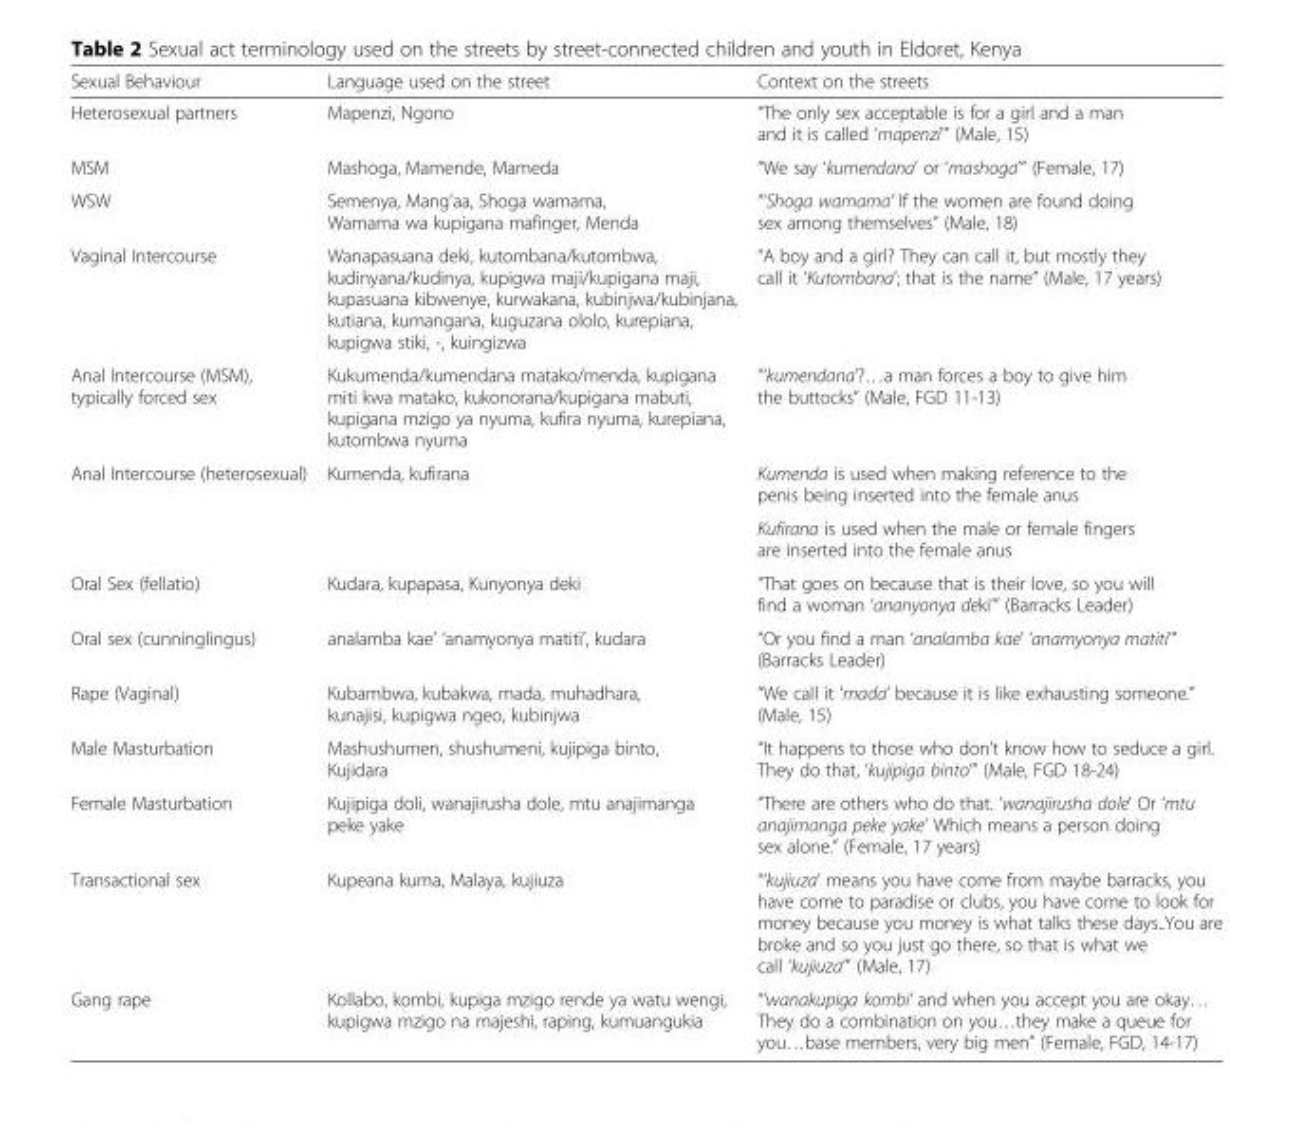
<table><thead><tr><td>Sexual Behaviour</td><td>Language used on the street</td><td>Context on the streets</td></tr></thead><tbody><tr><td>Heterosexual partners</td><td>Mapenzi, Ngono</td><td>“The only sex acceptable is for a girl and a man and it is called ‘mapenzi’” (Male, 15)</td></tr><tr><td>MSM</td><td>Mashoga, Mamende, Mameda</td><td>“We say ‘kumendana’ or ‘mashoga’” (Female, 17)</td></tr><tr><td>WSW</td><td>Semenya, Mang’aa, Shoga wamama, Wamama wa kupigana mafinger, Menda</td><td>“‘Shoga wamama’ If the women are found doing sex among themselves” (Male, 18)</td></tr><tr><td>Vaginal Intercourse</td><td>Wanapasuana deki, kutombana/kutombwa, kudinyana/kudinya, kupigwa maji/kupigana maji, kupasuana kibwenye, kurwakana, kubinjwa/kubinjana, kutiana, kumangana, kuguzana ololo, kurepiana, kupigwa stiki, -, kuingizwa</td><td>“A boy and a girl? They can call it, but mostly they call it ‘Kutombana’; that is the name” (Male, 17 years)</td></tr><tr><td>Anal Intercourse (MSM), typically forced sex</td><td>Kukumenda/kumendana matako/menda, kupigana miti kwa matako, kukonorana/kupigana mabuti, kupigana mzigo ya nyuma, kufira nyuma, kurepiana, kutombwa nyuma</td><td>“‘kumendana’?…a man forces a boy to give him the buttocks” (Male, FGD 11-13)</td></tr><tr><td rowspan="2">Anal Intercourse (heterosexual)</td><td rowspan="2">Kumenda, kufirana</td><td>Kumenda is used when making reference to the penis being inserted into the female anus</td></tr><tr><td>Kufirana is used when the male or female fingers are inserted into the female anus</td></tr><tr><td>Oral Sex (fellatio)</td><td>Kudara, kupapasa, Kunyonya deki</td><td>“That goes on because that is their love, so you will find a woman ‘ananyonya deki’” (Barracks Leader)</td></tr><tr><td>Oral sex (cunninglingus)</td><td>analamba kae’ ‘anamyonya matiti’, kudara</td><td>“Or you find a man ‘analamba kae’ ‘anamyonya matiti’” (Barracks Leader)</td></tr><tr><td>Rape (Vaginal)</td><td>Kubambwa, kubakwa, mada, muhadhara, kunajisi, kupigwa ngeo, kubinjwa</td><td>“We call it ‘mada’ because it is like exhausting someone.” (Male, 15)</td></tr><tr><td>Male Masturbation</td><td>Mashushumen, shushumeni, kujipiga binto, Kujidara</td><td>“It happens to those who don’t know how to seduce a girl. They do that, ‘kujipiga binto’” (Male, FGD 18-24)</td></tr><tr><td>Female Masturbation</td><td>Kujipiga doli, wanajirusha dole, mtu anajimanga peke yake</td><td>“There are others who do that. ‘wanajirusha dole’ Or ‘mtu anajimanga peke yake’ Which means a person doing sex alone.” (Female, 17 years)</td></tr><tr><td>Transactional sex</td><td>Kupeana kuma, Malaya, kujiuza</td><td>“‘kujiuza’ means you have come from maybe barracks, you have come to paradise or clubs, you have come to look for money because you money is what talks these days..You are broke and so you just go there, so that is what we call ‘kujiuza’” (Male, 17)</td></tr><tr><td>Gang rape</td><td>Kollabo, kombi, kupiga mzigo rende ya watu wengi, kupigwa mzigo na majeshi, raping, kumuangukia</td><td>“‘wanakupiga kombi’ and when you accept you are okay… They do a combination on you…they make a queue for you…base members, very big men” (Female, FGD, 14-17)</td></tr></tbody></table>